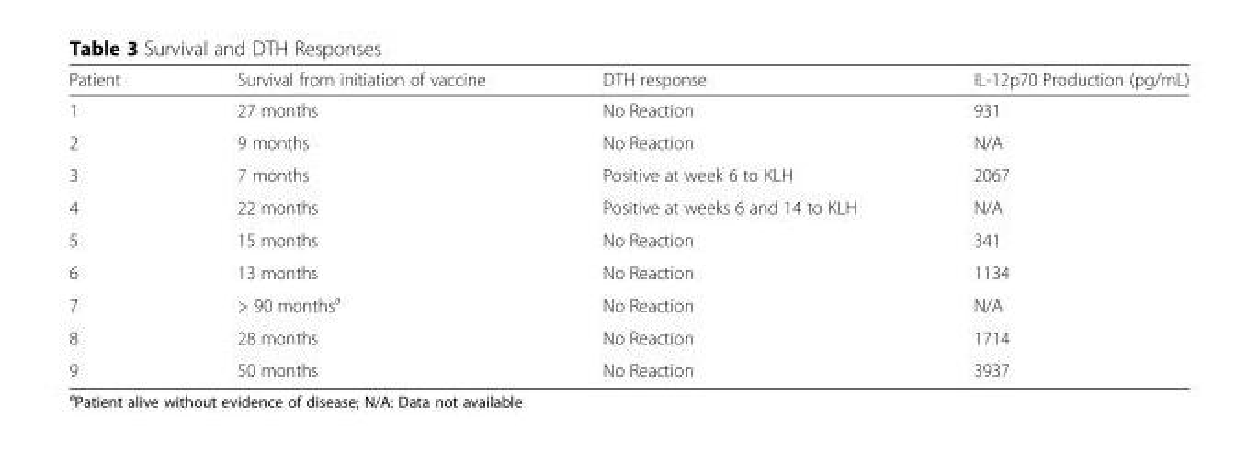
<table><thead><tr><td>Patient</td><td>Survival from initiation of vaccine</td><td>DTH response</td><td>IL-12p70 Production (pg/mL)</td></tr></thead><tbody><tr><td>1</td><td>27 months</td><td>No Reaction</td><td>931</td></tr><tr><td>2</td><td>9 months</td><td>No Reaction</td><td>N/A</td></tr><tr><td>3</td><td>7 months</td><td>Positive at week 6 to KLH</td><td>2067</td></tr><tr><td>4</td><td>22 months</td><td>Positive at weeks 6 and 14 to KLH</td><td>N/A</td></tr><tr><td>5</td><td>15 months</td><td>No Reaction</td><td>341</td></tr><tr><td>6</td><td>13 months</td><td>No Reaction</td><td>1134</td></tr><tr><td>7</td><td>&gt; 90 months<sup>a</sup></td><td>No Reaction</td><td>N/A</td></tr><tr><td>8</td><td>28 months</td><td>No Reaction</td><td>1714</td></tr><tr><td>9</td><td>50 months</td><td>No Reaction</td><td>3937</td></tr></tbody></table>